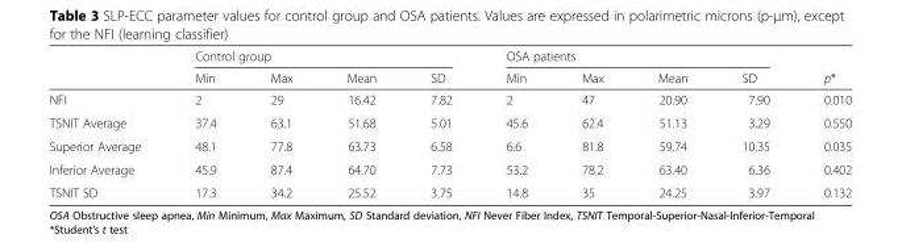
<table><thead><tr><td rowspan="2"></td><td colspan="4">Control group</td><td colspan="4">OSA patients</td><td rowspan="2">p*</td></tr><tr><td>Min</td><td>Max</td><td>Mean</td><td>SD</td><td>Min</td><td>Max</td><td>Mean</td><td>SD</td></tr></thead><tbody><tr><td>NFI</td><td>2</td><td>29</td><td>16.42</td><td>7.82</td><td>2</td><td>47</td><td>20.90</td><td>7.90</td><td>0.010</td></tr><tr><td>TSNIT Average</td><td>37.4</td><td>63.1</td><td>51.68</td><td>5.01</td><td>45.6</td><td>62.4</td><td>51.13</td><td>3.29</td><td>0.550</td></tr><tr><td>Superior Average</td><td>48.1</td><td>77.8</td><td>63.73</td><td>6.58</td><td>6.6</td><td>81.8</td><td>59.74</td><td>10.35</td><td>0.035</td></tr><tr><td>Inferior Average</td><td>45.9</td><td>87.4</td><td>64.70</td><td>7.73</td><td>53.2</td><td>78.2</td><td>63.40</td><td>6.36</td><td>0.402</td></tr><tr><td>TSNIT SD</td><td>17.3</td><td>34.2</td><td>25.52</td><td>3.75</td><td>14.8</td><td>35</td><td>24.25</td><td>3.97</td><td>0.132</td></tr></tbody></table>